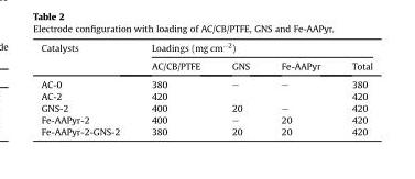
<table><thead><tr><td rowspan="2">Catalysts</td><td colspan="4">Loadings (mg cm<sup>−2</sup>)</td></tr><tr><td>AC/CB/PTFE</td><td>GNS</td><td>Fe-AAPyr</td><td>Total</td></tr></thead><tbody><tr><td>AC-0</td><td>380</td><td>–</td><td>–</td><td>380</td></tr><tr><td>AC-2</td><td>420</td><td></td><td></td><td>420</td></tr><tr><td>GNS-2</td><td>400</td><td>20</td><td>–</td><td>420</td></tr><tr><td>Fe-AAPyr-2</td><td>400</td><td>–</td><td>20</td><td>420</td></tr><tr><td>Fe-AAPyr-2-GNS-2</td><td>380</td><td>20</td><td>20</td><td>420</td></tr></tbody></table>